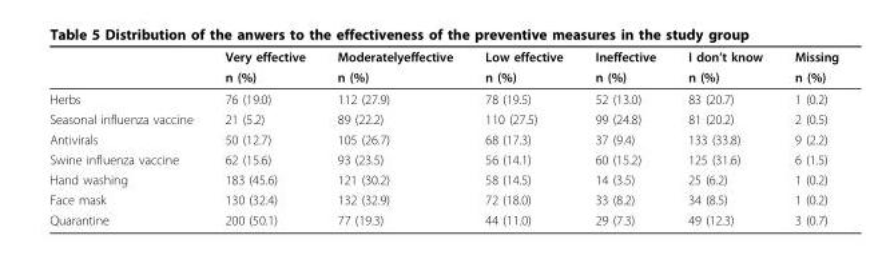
<table><thead><tr><td rowspan="2"></td><td rowspan="2">Very effective n (%)</td><td rowspan="2">Moderatelyeffective n (%)</td><td rowspan="2">Low effective n (%)</td><td rowspan="2">Ineffective n (%)</td><td rowspan="2">I don’t know n (%)</td><td rowspan="2">Missing n (%)</td></tr><tr></tr></thead><tbody><tr><td>Herbs</td><td>76 (19.0)</td><td>112 (27.9)</td><td>78 (19.5)</td><td>52 (13.0)</td><td>83 (20.7)</td><td>1 (0.2)</td></tr><tr><td>Seasonal influenza vaccine</td><td>21 (5.2)</td><td>89 (22.2)</td><td>110 (27.5)</td><td>99 (24.8)</td><td>81 (20.2)</td><td>2 (0.5)</td></tr><tr><td>Antivirals</td><td>50 (12.7)</td><td>105 (26.7)</td><td>68 (17.3)</td><td>37 (9.4)</td><td>133 (33.8)</td><td>9 (2.2)</td></tr><tr><td>Swine influenza vaccine</td><td>62 (15.6)</td><td>93 (23.5)</td><td>56 (14.1)</td><td>60 (15.2)</td><td>125 (31.6)</td><td>6 (1.5)</td></tr><tr><td>Hand washing</td><td>183 (45.6)</td><td>121 (30.2)</td><td>58 (14.5)</td><td>14 (3.5)</td><td>25 (6.2)</td><td>1 (0.2)</td></tr><tr><td>Face mask</td><td>130 (32.4)</td><td>132 (32.9)</td><td>72 (18.0)</td><td>33 (8.2)</td><td>34 (8.5)</td><td>1 (0.2)</td></tr><tr><td>Quarantine</td><td>200 (50.1)</td><td>77 (19.3)</td><td>44 (11.0)</td><td>29 (7.3)</td><td>49 (12.3)</td><td>3 (0.7)</td></tr></tbody></table>